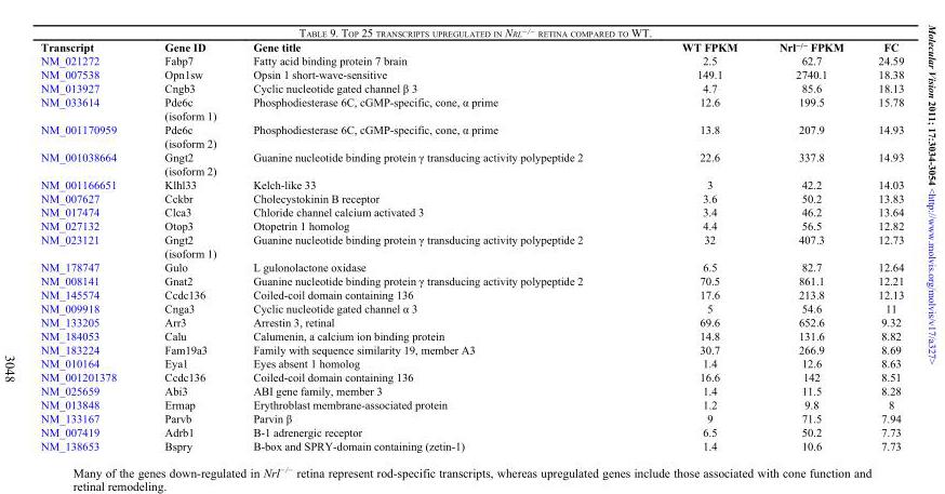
<table><thead><tr><td>Transcript</td><td>Gene ID</td><td>Gene title</td><td>WT FPKM</td><td>Nrl<sup>−/−</sup> FPKM</td><td>FC</td></tr></thead><tbody><tr><td>NM_021272</td><td>Fabp7</td><td>Fatty acid binding protein 7 brain</td><td>2.5</td><td>62.7</td><td>24.59</td></tr><tr><td>NM_007538</td><td>Opn1sw</td><td>Opsin 1 short-wave-sensitive</td><td>149.1</td><td>2740.1</td><td>18.38</td></tr><tr><td>NM_013927</td><td>Cngb3</td><td>Cyclic nucleotide gated channel β 3</td><td>4.7</td><td>85.6</td><td>18.13</td></tr><tr><td>NM_033614</td><td>Pde6c (isoform 1)</td><td>Phosphodiesterase 6C, cGMP-specific, cone, α prime</td><td>12.6</td><td>199.5</td><td>15.78</td></tr><tr><td>NM_001170959</td><td>Pde6c (isoform 2)</td><td>Phosphodiesterase 6C, cGMP-specific, cone, α prime</td><td>13.8</td><td>207.9</td><td>14.93</td></tr><tr><td>NM_001038664</td><td>Gngt2 (isoform 2)</td><td>Guanine nucleotide binding protein γ transducing activity polypeptide 2</td><td>22.6</td><td>337.8</td><td>14.93</td></tr><tr><td>NM_001166651</td><td>Klhl33</td><td>Kelch-like 33</td><td>3</td><td>42.2</td><td>14.03</td></tr><tr><td>NM_007627</td><td>Cckbr</td><td>Cholecystokinin B receptor</td><td>3.6</td><td>50.2</td><td>13.83</td></tr><tr><td>NM_017474</td><td>Clca3</td><td>Chloride channel calcium activated 3</td><td>3.4</td><td>46.2</td><td>13.64</td></tr><tr><td>NM_027132</td><td>Otop3</td><td>Otopetrin 1 homolog</td><td>4.4</td><td>56.5</td><td>12.82</td></tr><tr><td>NM_023121</td><td>Gngt2 (isoform 1)</td><td>Guanine nucleotide binding protein γ transducing activity polypeptide 2</td><td>32</td><td>407.3</td><td>12.73</td></tr><tr><td>NM_178747</td><td>Gulo</td><td>L gulonolactone oxidase</td><td>6.5</td><td>82.7</td><td>12.64</td></tr><tr><td>NM_008141</td><td>Gnat2</td><td>Guanine nucleotide binding protein γ transducing activity polypeptide 2</td><td>70.5</td><td>861.1</td><td>12.21</td></tr><tr><td>NM_145574</td><td>Ccdc136</td><td>Coiled-coil domain containing 136</td><td>17.6</td><td>213.8</td><td>12.13</td></tr><tr><td>NM_009918</td><td>Cnga3</td><td>Cyclic nucleotide gated channel α 3</td><td>5</td><td>54.6</td><td>11</td></tr><tr><td>NM_133205</td><td>Arr3</td><td>Arrestin 3, retinal</td><td>69.6</td><td>652.6</td><td>9.32</td></tr><tr><td>NM_184053</td><td>Calu</td><td>Calumenin, a calcium ion binding protein</td><td>14.8</td><td>131.6</td><td>8.82</td></tr><tr><td>NM_183224</td><td>Fam19a3</td><td>Family with sequence similarity 19, member A3</td><td>30.7</td><td>266.9</td><td>8.69</td></tr><tr><td>NM_010164</td><td>Eya1</td><td>Eyes absent 1 homolog</td><td>1.4</td><td>12.6</td><td>8.63</td></tr><tr><td>NM_001201378</td><td>Ccdc136</td><td>Coiled-coil domain containing 136</td><td>16.6</td><td>142</td><td>8.51</td></tr><tr><td>NM_025659</td><td>Abi3</td><td>ABI gene family, member 3</td><td>1.4</td><td>11.5</td><td>8.28</td></tr><tr><td>NM_013848</td><td>Ermap</td><td>Erythroblast membrane-associated protein</td><td>1.2</td><td>9.8</td><td>8</td></tr><tr><td>NM_133167</td><td>Parvb</td><td>Parvin β</td><td>9</td><td>71.5</td><td>7.94</td></tr><tr><td>NM_007419</td><td>Adrb1</td><td>Β-1 adrenergic receptor</td><td>6.5</td><td>50.2</td><td>7.73</td></tr><tr><td>NM_138653</td><td>Bspry</td><td>B-box and SPRY-domain containing (zetin-1)</td><td>1.4</td><td>10.6</td><td>7.73</td></tr></tbody></table>